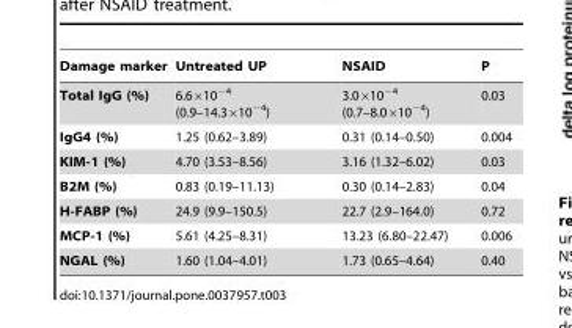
<table><thead><tr><td>Damage marker</td><td>Untreated UP</td><td>NSAID</td><td>P</td></tr></thead><tbody><tr><td>Total IgG (%)</td><td>6.6×10<sup>−4</sup> (0.9–14.3×10<sup>−4</sup>)</td><td>3.0×10<sup>−4</sup> (0.7–8.0×10<sup>−4</sup>)</td><td>0.03</td></tr><tr><td>IgG4 (%)</td><td>1.25 (0.62–3.89)</td><td>0.31 (0.14–0.50)</td><td>0.004</td></tr><tr><td>KIM-1 (%)</td><td>4.70 (3.53–8.56)</td><td>3.16 (1.32–6.02)</td><td>0.03</td></tr><tr><td>B2M (%)</td><td>0.83 (0.19–11.13)</td><td>0.30 (0.14–2.83)</td><td>0.04</td></tr><tr><td>H-FABP (%)</td><td>24.9 (9.9–150.5)</td><td>22.7 (2.9–164.0)</td><td>0.72</td></tr><tr><td>MCP-1 (%)</td><td>5.61 (4.25–8.31)</td><td>13.23 (6.80–22.47)</td><td>0.006</td></tr><tr><td>NGAL (%)</td><td>1.60 (1.04–4.01)</td><td>1.73 (0.65–4.64)</td><td>0.40</td></tr></tbody></table>